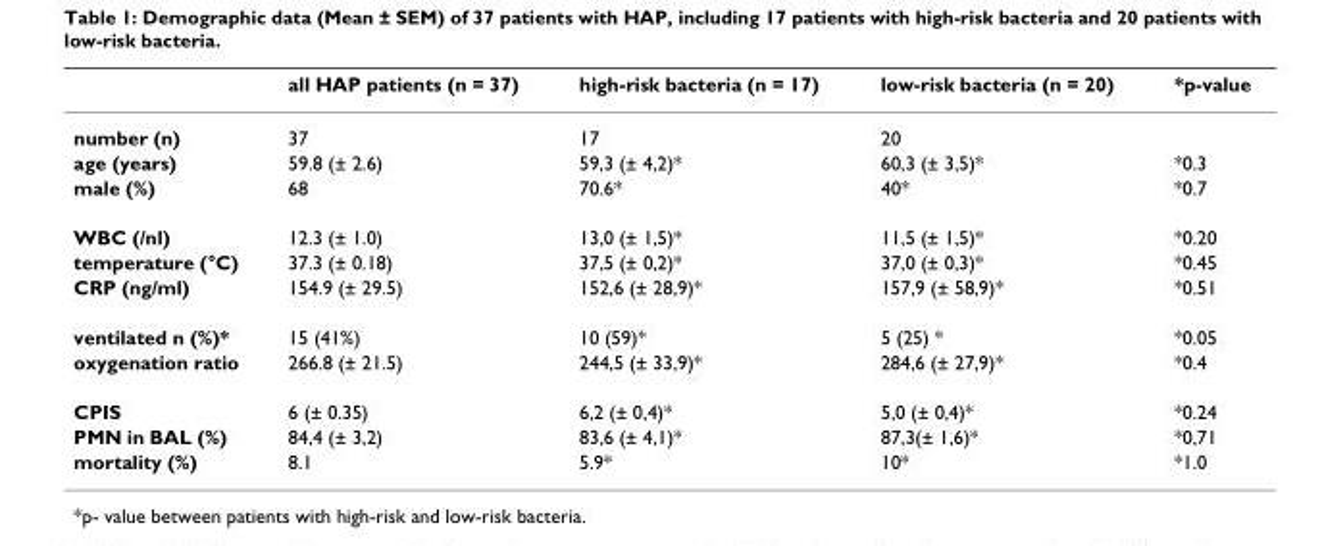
<table><thead><tr><td></td><td>all HAP patients (n = 37)</td><td>high-risk bacteria (n = 17)</td><td>low-risk bacteria (n = 20)</td><td>*p-value</td></tr></thead><tbody><tr><td>number (n)</td><td>37</td><td>17</td><td>20</td><td></td></tr><tr><td>age (years)</td><td>59.8 (± 2.6)</td><td>59,3 (± 4,2)*</td><td>60,3 (± 3,5)*</td><td>*0.3</td></tr><tr><td>male (%)</td><td>68</td><td>70.6*</td><td>40*</td><td>*0.7</td></tr><tr><td>WBC (/nl)</td><td>12.3 (± 1.0)</td><td>13,0 (± 1,5)*</td><td>11,5 (± 1,5)*</td><td>*0.20</td></tr><tr><td>temperature (°C)</td><td>37.3 (± 0.18)</td><td>37,5 (± 0,2)*</td><td>37,0 (± 0,3)*</td><td>*0.45</td></tr><tr><td>CRP (ng/ml)</td><td>154.9 (± 29.5)</td><td>152,6 (± 28,9)*</td><td>157,9 (± 58,9)*</td><td>*0.51</td></tr><tr><td>ventilated n (%)*</td><td>15 (41%)</td><td>10 (59)*</td><td>5 (25) *</td><td>*0.05</td></tr><tr><td>oxygenation ratio</td><td>266.8 (± 21.5)</td><td>244,5 (± 33,9)*</td><td>284,6 (± 27,9)*</td><td>*0.4</td></tr><tr><td>CPIS</td><td>6 (± 0.35)</td><td>6,2 (± 0,4)*</td><td>5,0 (± 0,4)*</td><td>*0.24</td></tr><tr><td>PMN in BAL (%)</td><td>84,4 (± 3,2)</td><td>83,6 (± 4,1)*</td><td>87,3(± 1,6)*</td><td>*0,71</td></tr><tr><td>mortality (%)</td><td>8.1</td><td>5.9*</td><td>10*</td><td>*1.0</td></tr></tbody></table>